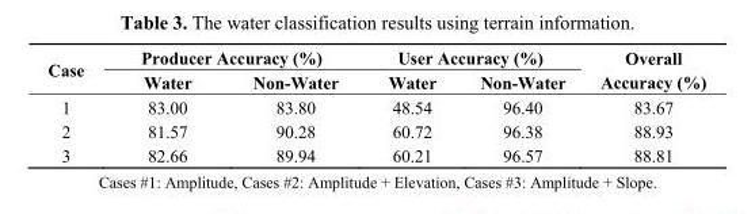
<table><thead><tr><td rowspan="2">Case</td><td colspan="2">Producer Accuracy (%)</td><td colspan="2">User Accuracy (%)</td><td rowspan="2">Overall Accuracy (%)</td></tr><tr><td>Water</td><td>Non-Water</td><td>Water</td><td>Non-Water</td></tr></thead><tbody><tr><td>1</td><td>83.00</td><td>83.80</td><td>48.54</td><td>96.40</td><td>83.67</td></tr><tr><td>2</td><td>81.57</td><td>90.28</td><td>60.72</td><td>96.38</td><td>88.93</td></tr><tr><td>3</td><td>82.66</td><td>89.94</td><td>60.21</td><td>96.57</td><td>88.81</td></tr></tbody></table>